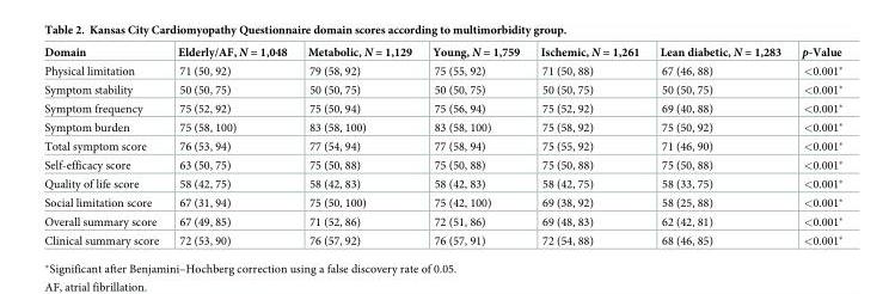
<table><thead><tr><td>Domain</td><td>Elderly/AF, N = 1,048</td><td>Metabolic, N = 1,129</td><td>Young, N = 1,759</td><td>Ischemic, N = 1,261</td><td>Lean diabetic, N = 1,283</td><td>p-Value</td></tr></thead><tbody><tr><td>Physical limitation</td><td>71 (50, 92)</td><td>79 (58, 92)</td><td>75 (55, 92)</td><td>71 (50, 88)</td><td>67 (46, 88)</td><td>&lt;0.001*</td></tr><tr><td>Symptom stability</td><td>50 (50, 75)</td><td>50 (50, 75)</td><td>50 (50, 75)</td><td>50 (50, 75)</td><td>50 (50, 75)</td><td>&lt;0.001*</td></tr><tr><td>Symptom frequency</td><td>75 (52, 92)</td><td>75 (50, 94)</td><td>75 (56, 94)</td><td>75 (52, 92)</td><td>69 (40, 88)</td><td>&lt;0.001*</td></tr><tr><td>Symptom burden</td><td>75 (58, 100)</td><td>83 (58, 100)</td><td>83 (58, 100)</td><td>75 (58, 92)</td><td>75 (50, 92)</td><td>&lt;0.001*</td></tr><tr><td>Total symptom score</td><td>76 (53, 94)</td><td>77 (54, 94)</td><td>77 (58, 94)</td><td>75 (55, 92)</td><td>71 (46, 90)</td><td>&lt;0.001*</td></tr><tr><td>Self-efficacy score</td><td>63 (50, 75)</td><td>75 (50, 88)</td><td>75 (50, 88)</td><td>75 (50, 88)</td><td>75 (50, 88)</td><td>&lt;0.001*</td></tr><tr><td>Quality of life score</td><td>58 (42, 75)</td><td>58 (42, 83)</td><td>58 (42, 83)</td><td>58 (42, 75)</td><td>58 (33, 75)</td><td>&lt;0.001*</td></tr><tr><td>Social limitation score</td><td>67 (31, 94)</td><td>75 (50, 100)</td><td>75 (42, 100)</td><td>69 (38, 92)</td><td>58 (25, 88)</td><td>&lt;0.001*</td></tr><tr><td>Overall summary score</td><td>67 (49, 85)</td><td>71 (52, 86)</td><td>72 (51, 86)</td><td>69 (48, 83)</td><td>62 (42, 81)</td><td>&lt;0.001*</td></tr><tr><td>Clinical summary score</td><td>72 (53, 90)</td><td>76 (57, 92)</td><td>76 (57, 91)</td><td>72 (54, 88)</td><td>68 (46, 85)</td><td>&lt;0.001*</td></tr></tbody></table>